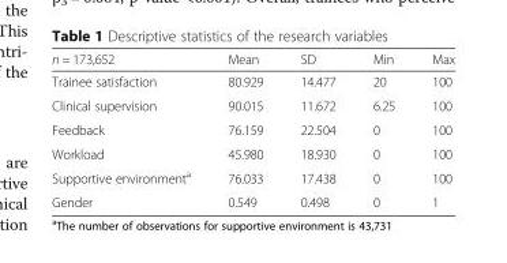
<table><thead><tr><td>n = 173,652</td><td>Mean</td><td>SD</td><td>Min</td><td>Max</td></tr></thead><tbody><tr><td>Trainee satisfaction</td><td>80.929</td><td>14.477</td><td>20</td><td>100</td></tr><tr><td>Clinical supervision</td><td>90.015</td><td>11.672</td><td>6.25</td><td>100</td></tr><tr><td>Feedback</td><td>76.159</td><td>22.504</td><td>0</td><td>100</td></tr><tr><td>Workload</td><td>45.980</td><td>18.930</td><td>0</td><td>100</td></tr><tr><td>Supportive environment<sup>a</sup></td><td>76.033</td><td>17.438</td><td>0</td><td>100</td></tr><tr><td>Gender</td><td>0.549</td><td>0.498</td><td>0</td><td>1</td></tr></tbody></table>